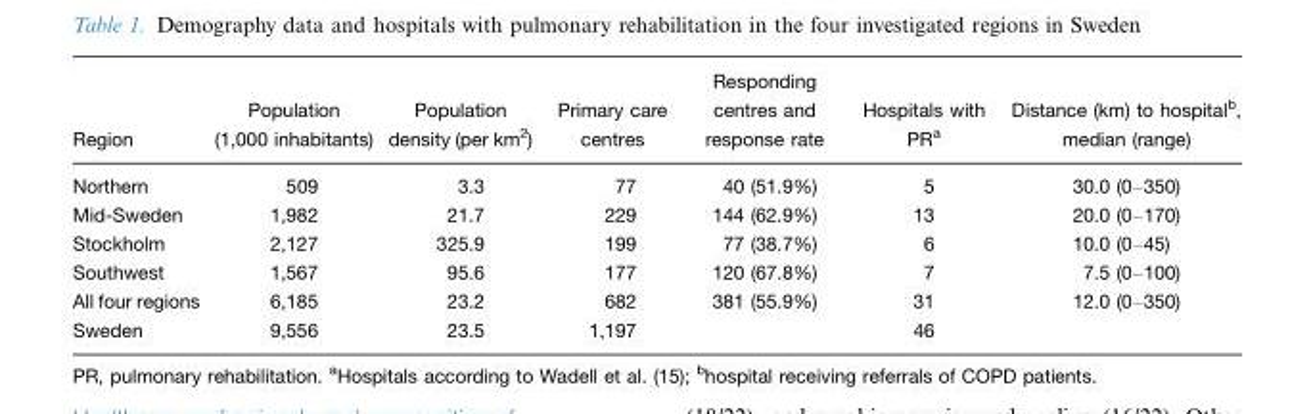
<table><thead><tr><td>Region</td><td>Population (1,000 inhabitants)</td><td>Population density (per km<sup>2</sup>)</td><td>Primary care centres</td><td>Responding centres and response rate</td><td>Hospitals with PR<sup>a</sup></td><td>Distance (km) to hospital<sup>b</sup>, median (range)</td></tr></thead><tbody><tr><td>Northern</td><td>509</td><td>3.3</td><td>77</td><td>40 (51.9%)</td><td>5</td><td>30.0 (0–350)</td></tr><tr><td>Mid-Sweden</td><td>1,982</td><td>21.7</td><td>229</td><td>144 (62.9%)</td><td>13</td><td>20.0 (0–170)</td></tr><tr><td>Stockholm</td><td>2,127</td><td>325.9</td><td>199</td><td>77 (38.7%)</td><td>6</td><td>10.0 (0–45)</td></tr><tr><td>Southwest</td><td>1,567</td><td>95.6</td><td>177</td><td>120 (67.8%)</td><td>7</td><td>7.5 (0–100)</td></tr><tr><td>All four regions</td><td>6,185</td><td>23.2</td><td>682</td><td>381 (55.9%)</td><td>31</td><td>12.0 (0–350)</td></tr><tr><td>Sweden</td><td>9,556</td><td>23.5</td><td>1,197</td><td></td><td>46</td><td></td></tr></tbody></table>